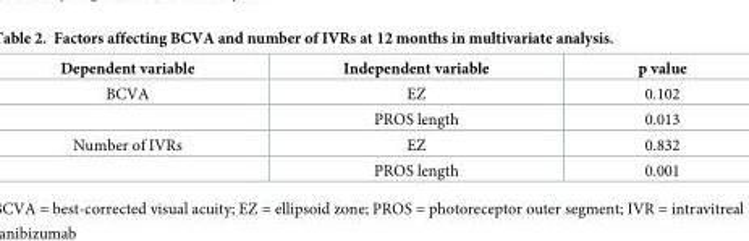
<table><thead><tr><td>Dependent variable</td><td>Independent variable</td><td>p value</td></tr></thead><tbody><tr><td rowspan="2">BCVA</td><td>EZ</td><td>0.102</td></tr><tr><td>PROS length</td><td>0.013</td></tr><tr><td rowspan="2">Number of IVRs</td><td>EZ</td><td>0.832</td></tr><tr><td>PROS length</td><td>0.001</td></tr></tbody></table>